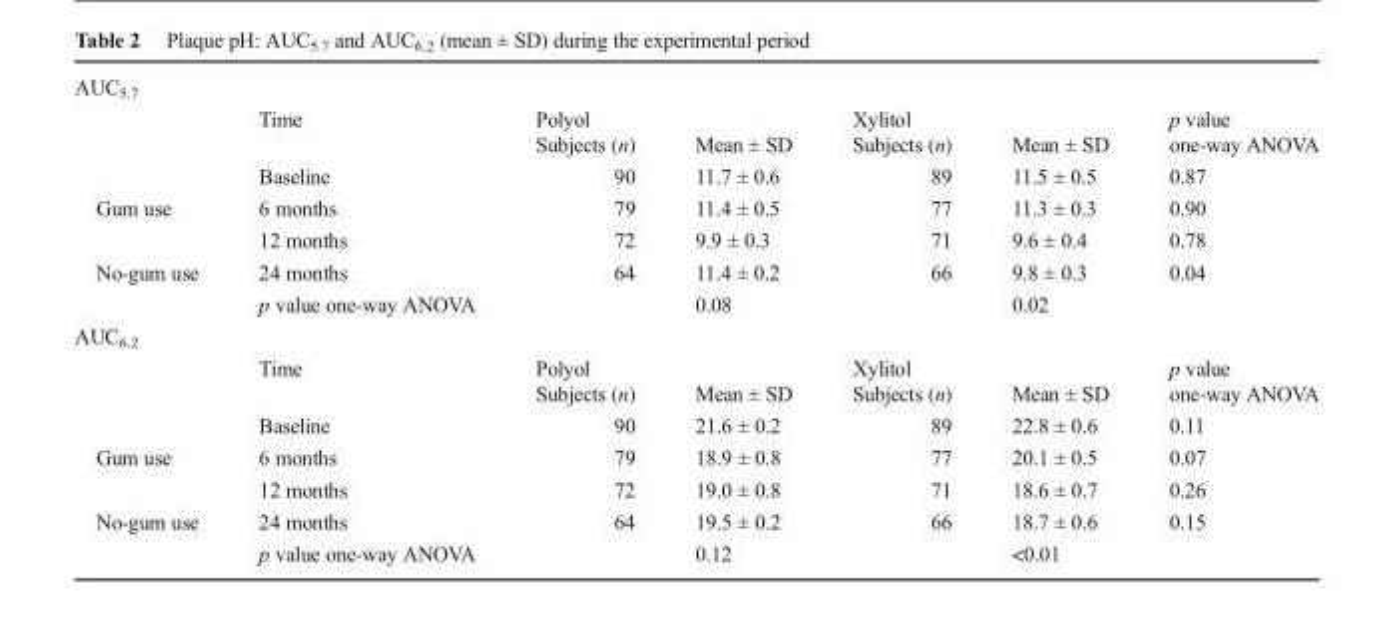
<table><tbody><tr><td colspan="7">AUC<sub>5.7</sub></td></tr><tr><td rowspan="2"></td><td rowspan="2">Time</td><td colspan="2">Polyol</td><td colspan="2">Xylitol</td><td rowspan="2">p value one-way ANOVA</td></tr><tr><td>Subjects (n)</td><td>Mean ± SD</td><td>Subjects (n)</td><td>Mean ± SD</td></tr><tr><td></td><td>Baseline</td><td>90</td><td>11.7 ± 0.6</td><td>89</td><td>11.5 ± 0.5</td><td>0.87</td></tr><tr><td rowspan="2">Gum use</td><td>6 months</td><td>79</td><td>11.4 ± 0.5</td><td>77</td><td>11.3 ± 0.3</td><td>0.90</td></tr><tr><td>12 months</td><td>72</td><td>9.9 ± 0.3</td><td>71</td><td>9.6 ± 0.4</td><td>0.78</td></tr><tr><td rowspan="2">No-gum use</td><td>24 months</td><td>64</td><td>11.4 ± 0.2</td><td>66</td><td>9.8 ± 0.3</td><td>0.04</td></tr><tr><td>p value one-way ANOVA</td><td></td><td>0.08</td><td></td><td>0.02</td><td></td></tr><tr><td colspan="7">AUC<sub>6.2</sub></td></tr><tr><td rowspan="2"></td><td rowspan="2">Time</td><td colspan="2">Polyol</td><td colspan="2">Xylitol</td><td rowspan="2">p value one-way ANOVA</td></tr><tr><td>Subjects (n)</td><td>Mean ± SD</td><td>Subjects (n)</td><td>Mean ± SD</td></tr><tr><td></td><td>Baseline</td><td>90</td><td>21.6 ± 0.2</td><td>89</td><td>22.8 ± 0.6</td><td>0.11</td></tr><tr><td rowspan="2">Gum use</td><td>6 months</td><td>79</td><td>18.9 ± 0.8</td><td>77</td><td>20.1 ± 0.5</td><td>0.07</td></tr><tr><td>12 months</td><td>72</td><td>19.0 ± 0.8</td><td>71</td><td>18.6 ± 0.7</td><td>0.26</td></tr><tr><td rowspan="2">No-gum use</td><td>24 months</td><td>64</td><td>19.5 ± 0.2</td><td>66</td><td>18.7 ± 0.6</td><td>0.15</td></tr><tr><td>p value one-way ANOVA</td><td></td><td>0.12</td><td></td><td>&lt;0.01</td><td></td></tr></tbody></table>